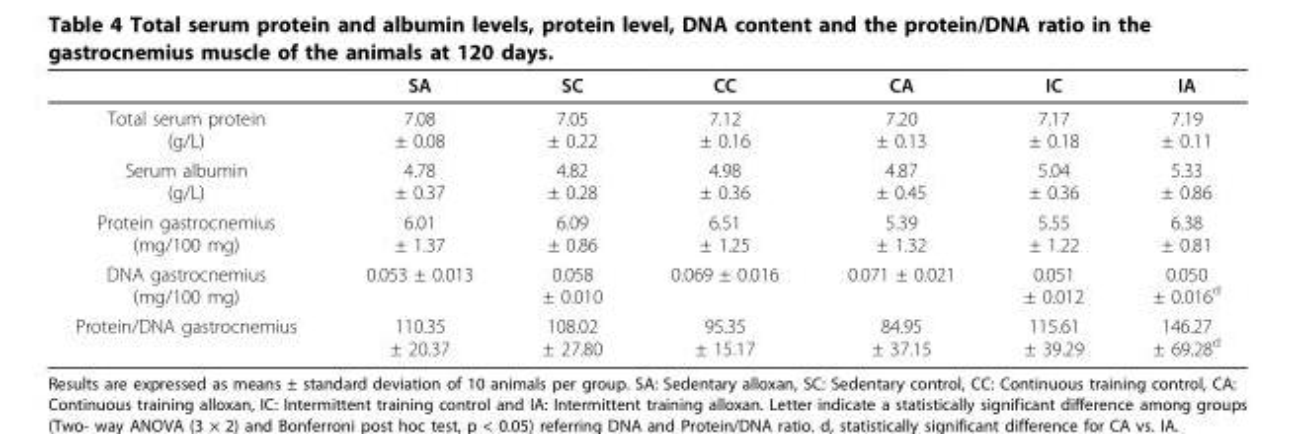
<table><thead><tr><td></td><td>SA</td><td>SC</td><td>CC</td><td>CA</td><td>IC</td><td>IA</td></tr></thead><tbody><tr><td>Total serum protein (g/L)</td><td>7.08 ± 0.08</td><td>7.05 ± 0.22</td><td>7.12 ± 0.16</td><td>7.20 ± 0.13</td><td>7.17 ± 0.18</td><td>7.19 ± 0.11</td></tr><tr><td>Serum albumin (g/L)</td><td>4.78 ± 0.37</td><td>4.82 ± 0.28</td><td>4.98 ± 0.36</td><td>4.87 ± 0.45</td><td>5.04 ± 0.36</td><td>5.33 ± 0.86</td></tr><tr><td>Protein gastrocnemius (mg/100 mg)</td><td>6.01 ± 1.37</td><td>6.09 ± 0.86</td><td>6.51 ± 1.25</td><td>5.39 ± 1.32</td><td>5.55 ± 1.22</td><td>6.38 ± 0.81</td></tr><tr><td>DNA gastrocnemius (mg/100 mg)</td><td>0.053 ± 0.013</td><td>0.058 ± 0.010</td><td>0.069 ± 0.016</td><td>0.071 ± 0.021</td><td>0.051 ± 0.012</td><td>0.050 ± 0.016<sup>d</sup></td></tr><tr><td>Protein/DNA gastrocnemius</td><td>110.35 ± 20.37</td><td>108.02 ± 27.80</td><td>95.35 ± 15.17</td><td>84.95 ± 37.15</td><td>115.61 ± 39.29</td><td>146.27 ± 69.28<sup>d</sup></td></tr></tbody></table>